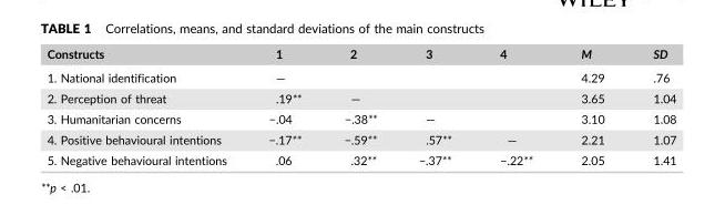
<table><thead><tr><td>Constructs</td><td>1</td><td>2</td><td>3</td><td>4</td><td>M</td><td>SD</td></tr></thead><tbody><tr><td>1. National identification</td><td>—</td><td></td><td></td><td></td><td>4.29</td><td>.76</td></tr><tr><td>2. Perception of threat</td><td>.19**</td><td>—</td><td></td><td></td><td>3.65</td><td>1.04</td></tr><tr><td>3. Humanitarian concerns</td><td>−.04</td><td>−.38**</td><td>—</td><td></td><td>3.10</td><td>1.08</td></tr><tr><td>4. Positive behavioural intentions</td><td>−.17**</td><td>−.59**</td><td>.57**</td><td>—</td><td>2.21</td><td>1.07</td></tr><tr><td>5. Negative behavioural intentions</td><td>.06</td><td>.32**</td><td>−.37**</td><td>−.22**</td><td>2.05</td><td>1.41</td></tr></tbody></table>